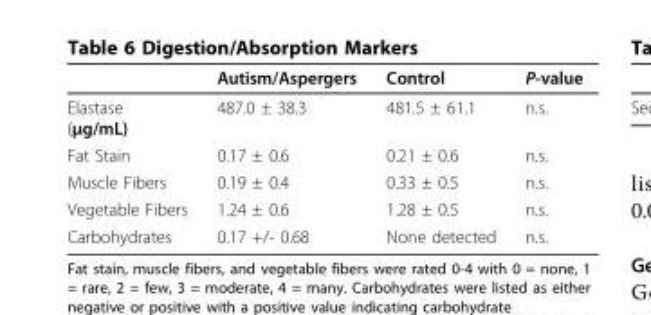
<table><thead><tr><td></td><td>Autism/Aspergers</td><td>Control</td><td>P-value</td></tr></thead><tbody><tr><td>Elastase (μg/mL)</td><td>487.0 ± 38.3</td><td>481.5 ± 61.1</td><td>n.s.</td></tr><tr><td>Fat Stain</td><td>0.17 ± 0.6</td><td>0.21 ± 0.6</td><td>n.s.</td></tr><tr><td>Muscle Fibers</td><td>0.19 ± 0.4</td><td>0.33 ± 0.5</td><td>n.s.</td></tr><tr><td>Vegetable Fibers</td><td>1.24 ± 0.6</td><td>1.28 ± 0.5</td><td>n.s.</td></tr><tr><td>Carbohydrates</td><td>0.17 +/- 0.68</td><td>None detected</td><td>n.s.</td></tr></tbody></table>